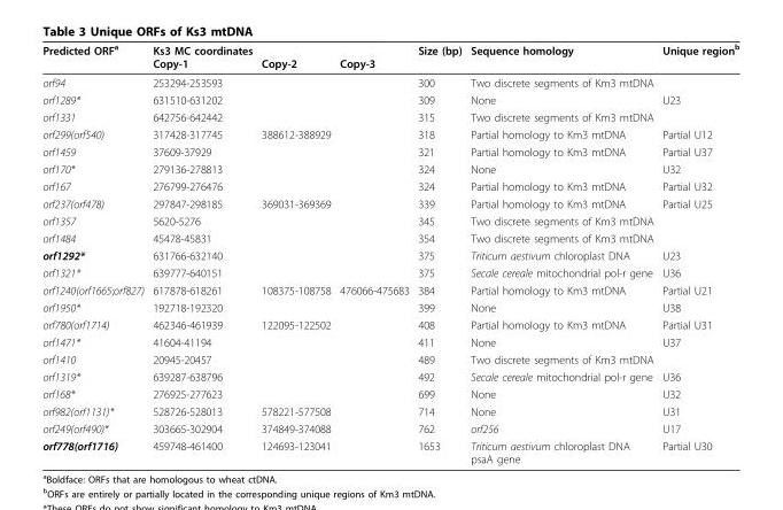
<table><thead><tr><td>Predicted ORF<sup>a</sup></td><td>Ks3 MC coordinates Copy-1</td><td>Copy-2</td><td>Copy-3</td><td>Size (bp)</td><td>Sequence homology</td><td>Unique region<sup>b</sup></td></tr></thead><tbody><tr><td>orf94</td><td>253294-253593</td><td></td><td></td><td>300</td><td>Two discrete segments of Km3 mtDNA</td><td></td></tr><tr><td>orf1289*</td><td>631510-631202</td><td></td><td></td><td>309</td><td>None</td><td>U23</td></tr><tr><td>orf1331</td><td>642756-642442</td><td></td><td></td><td>315</td><td>Two discrete segments of Km3 mtDNA</td><td></td></tr><tr><td>orf299(orf540)</td><td>317428-317745</td><td>388612-388929</td><td></td><td>318</td><td>Partial homology to Km3 mtDNA</td><td>Partial U12</td></tr><tr><td>orf1459</td><td>37609-37929</td><td></td><td></td><td>321</td><td>Partial homology to Km3 mtDNA</td><td>Partial U37</td></tr><tr><td>orf170*</td><td>279136-278813</td><td></td><td></td><td>324</td><td>None</td><td>U32</td></tr><tr><td>orf167</td><td>276799-276476</td><td></td><td></td><td>324</td><td>Partial homology to Km3 mtDNA</td><td>Partial U32</td></tr><tr><td>orf237(orf478)</td><td>297847-298185</td><td>369031-369369</td><td></td><td>339</td><td>Partial homology to Km3 mtDNA</td><td>Partial U25</td></tr><tr><td>orf1357</td><td>5620-5276</td><td></td><td></td><td>345</td><td>Two discrete segments of Km3 mtDNA</td><td></td></tr><tr><td>orf1484</td><td>45478-45831</td><td></td><td></td><td>354</td><td>Two discrete segments of Km3 mtDNA</td><td></td></tr><tr><td>orf1292*</td><td>631766-632140</td><td></td><td></td><td>375</td><td>Triticum aestivum chloroplast DNA</td><td>U23</td></tr><tr><td>orf1321*</td><td>639777-640151</td><td></td><td></td><td>375</td><td>Secale cereale mitochondrial pol-r gene</td><td>U36</td></tr><tr><td>orf1240(orf1665;orf827)</td><td>617878-618261</td><td>108375-108758</td><td>476066-475683</td><td>384</td><td>Partial homology to Km3 mtDNA</td><td>Partial U21</td></tr><tr><td>orf1950*</td><td>192718-192320</td><td></td><td></td><td>399</td><td>None</td><td>U38</td></tr><tr><td>orf780(orf1714)</td><td>462346-461939</td><td>122095-122502</td><td></td><td>408</td><td>Partial homology to Km3 mtDNA</td><td>Partial U31</td></tr><tr><td>orf1471*</td><td>41604-41194</td><td></td><td></td><td>411</td><td>None</td><td>U37</td></tr><tr><td>orf1410</td><td>20945-20457</td><td></td><td></td><td>489</td><td>Two discrete segments of Km3 mtDNA</td><td></td></tr><tr><td>orf1319*</td><td>639287-638796</td><td></td><td></td><td>492</td><td>Secale cereale mitochondrial pol-r gene</td><td>U36</td></tr><tr><td>orf168*</td><td>276925-277623</td><td></td><td></td><td>699</td><td>None</td><td>U32</td></tr><tr><td>orf982(orf1131)*</td><td>528726-528013</td><td>578221-577508</td><td></td><td>714</td><td>None</td><td>U31</td></tr><tr><td>orf249(orf490)*</td><td>303665-302904</td><td>374849-374088</td><td></td><td>762</td><td>orf256</td><td>U17</td></tr><tr><td>orf778(orf1716)</td><td>459748-461400</td><td>124693-123041</td><td></td><td>1653</td><td>Triticum aestivum chloroplast DNA psaA gene</td><td>Partial U30</td></tr></tbody></table>